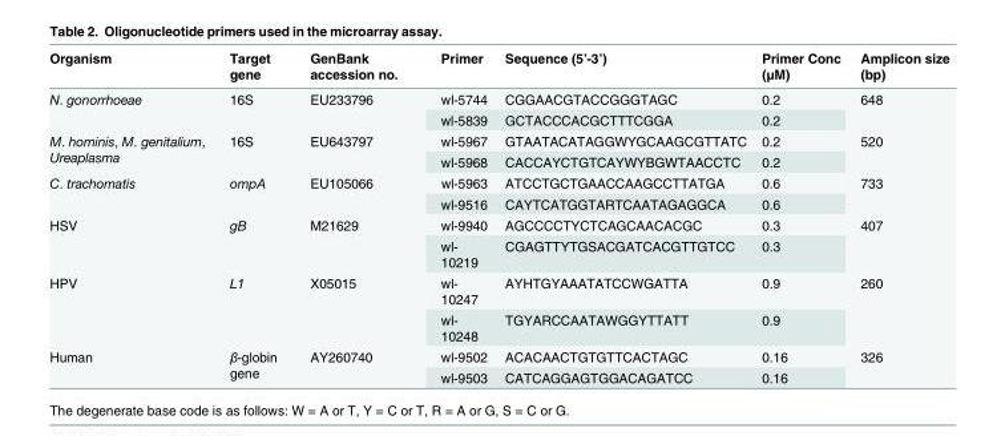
<table><thead><tr><td>Organism</td><td>Target gene</td><td>GenBank accession no.</td><td>Primer</td><td>Sequence (5’-3’)</td><td>Primer Conc (μM)</td><td>Amplicon size (bp)</td></tr></thead><tbody><tr><td rowspan="2">N. gonorrhoeae</td><td rowspan="2">16S</td><td rowspan="2">EU233796</td><td>wl-5744</td><td>CGGAACGTACCGGGTAGC</td><td>0.2</td><td rowspan="2">648</td></tr><tr><td>wl-5839</td><td>GCTACCCACGCTTTCGGA</td><td>0.2</td></tr><tr><td rowspan="2">M. hominis, M. genitalium, Ureaplasma</td><td rowspan="2">16S</td><td rowspan="2">EU643797</td><td>wl-5967</td><td>GTAATACATAGGWYGCAAGCGTTATC</td><td>0.2</td><td rowspan="2">520</td></tr><tr><td>wl-5968</td><td>CACCAYCTGTCAYWYBGWTAACCTC</td><td>0.2</td></tr><tr><td rowspan="2">C. trachomatis</td><td rowspan="2">ompA</td><td rowspan="2">EU105066</td><td>wl-5963</td><td>ATCCTGCTGAACCAAGCCTTATGA</td><td>0.6</td><td rowspan="2">733</td></tr><tr><td>wl-9516</td><td>CAYTCATGGTARTCAATAGAGGCA</td><td>0.6</td></tr><tr><td rowspan="2">HSV</td><td rowspan="2">gB</td><td rowspan="2">M21629</td><td>wl-9940</td><td>AGCCCCTYCTCAGCAACACGC</td><td>0.3</td><td rowspan="2">407</td></tr><tr><td>wl- 10219</td><td>CGAGTTYTGSACGATCACGTTGTCC</td><td>0.3</td></tr><tr><td rowspan="2">HPV</td><td rowspan="2">L1</td><td rowspan="2">X05015</td><td>wl- 10247</td><td>AYHTGYAAATATCCWGATTA</td><td>0.9</td><td rowspan="2">260</td></tr><tr><td>wl- 10248</td><td>TGYARCCAATAWGGYTTATT</td><td>0.9</td></tr><tr><td rowspan="2">Human</td><td rowspan="2">β-globin gene</td><td rowspan="2">AY260740</td><td>wl-9502</td><td>ACACAACTGTGTTCACTAGC</td><td>0.16</td><td rowspan="2">326</td></tr><tr><td>wl-9503</td><td>CATCAGGAGTGGACAGATCC</td><td>0.16</td></tr></tbody></table>